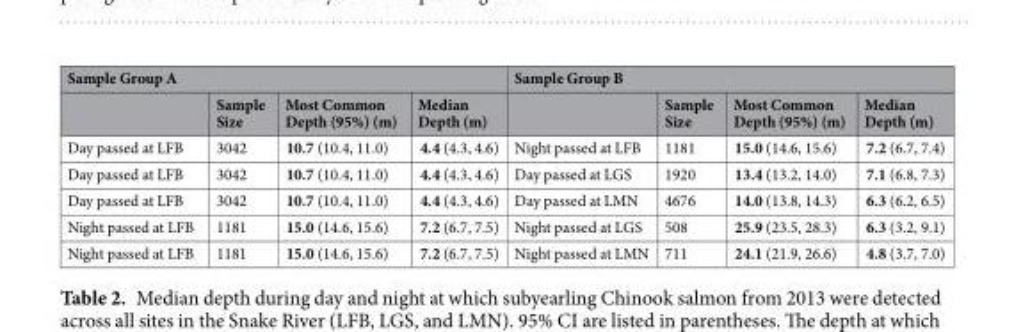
<table><thead><tr><td colspan="4">Sample Group A</td><td colspan="4">Sample Group B</td></tr><tr><td></td><td>Sample Size</td><td>Most Common Depth (95%) (m)</td><td>Median Depth (m)</td><td></td><td>Sample Size</td><td>Most Common Depth (95%) (m)</td><td>Median Depth (m)</td></tr></thead><tbody><tr><td>Day passed at LFB</td><td>3042</td><td>10.7 (10.4, 11.0)</td><td>4.4 (4.3, 4.6)</td><td>Night passed at LFB</td><td>1181</td><td>15.0 (14.6, 15.6)</td><td>7.2 (6.7, 7.4)</td></tr><tr><td>Day passed at LFB</td><td>3042</td><td>10.7 (10.4, 11.0)</td><td>4.4 (4.3, 4.6)</td><td>Day passed at LGS</td><td>1920</td><td>13.4 (13.2, 14.0)</td><td>7.1 (6.8, 7.3)</td></tr><tr><td>Day passed at LFB</td><td>3042</td><td>10.7 (10.4, 11.0)</td><td>4.4 (4.3, 4.6)</td><td>Day passed at LMN</td><td>4676</td><td>14.0 (13.8, 14.3)</td><td>6.3 (6.2, 6.5)</td></tr><tr><td>Night passed at LFB</td><td>1181</td><td>15.0 (14.6, 15.6)</td><td>7.2 (6.7, 7.5)</td><td>Night passed at LGS</td><td>508</td><td>25.9 (23.5, 28.3)</td><td>6.3 (3.2, 9.1)</td></tr><tr><td>Night passed at LFB</td><td>1181</td><td>15.0 (14.6, 15.6)</td><td>7.2 (6.7, 7.5)</td><td>Night passed at LMN</td><td>711</td><td>24.1 (21.9, 26.6)</td><td>4.8 (3.7, 7.0)</td></tr></tbody></table>